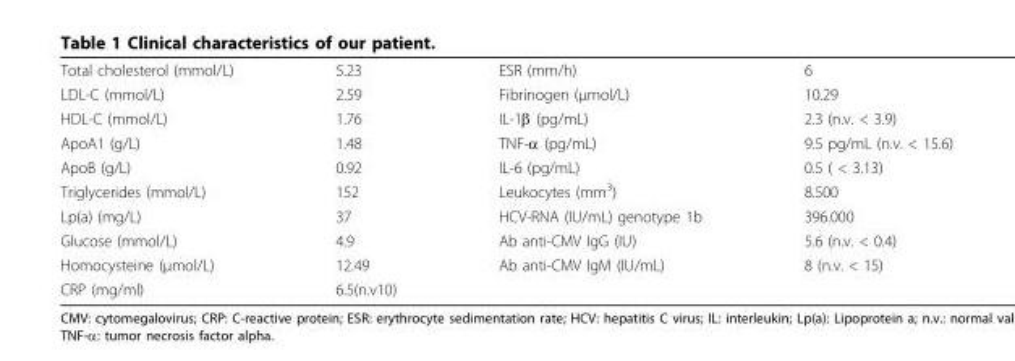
<table><tbody><tr><td>Total cholesterol (mmol/L)</td><td>5.23</td><td>ESR (mm/h)</td><td>6</td></tr><tr><td>LDL-C (mmol/L)</td><td>2.59</td><td>Fibrinogen (μmol/L)</td><td>10.29</td></tr><tr><td>HDL-C (mmol/L)</td><td>1.76</td><td>IL-1β (pg/mL)</td><td>2.3 (n.v. &lt; 3.9)</td></tr><tr><td>ApoA1 (g/L)</td><td>1.48</td><td>TNF-α (pg/mL)</td><td>9.5 pg/mL (n.v. &lt; 15.6)</td></tr><tr><td>ApoB (g/L)</td><td>0.92</td><td>IL-6 (pg/mL)</td><td>0.5 ( &lt; 3.13)</td></tr><tr><td>Triglycerides (mmol/L)</td><td>152</td><td>Leukocytes (mm<sup>3</sup>)</td><td>8.500</td></tr><tr><td>Lp(a) (mg/L)</td><td>37</td><td>HCV-RNA (IU/mL) genotype 1b</td><td>396.000</td></tr><tr><td>Glucose (mmol/L)</td><td>4.9</td><td>Ab anti-CMV IgG (IU)</td><td>5.6 (n.v. &lt; 0.4)</td></tr><tr><td>Homocysteine (μmol/L)</td><td>12.49</td><td>Ab anti-CMV IgM (IU/mL)</td><td>8 (n.v. &lt; 15)</td></tr><tr><td>CRP (mg/ml)</td><td>6.5(n.v10)</td><td></td><td></td></tr></tbody></table>